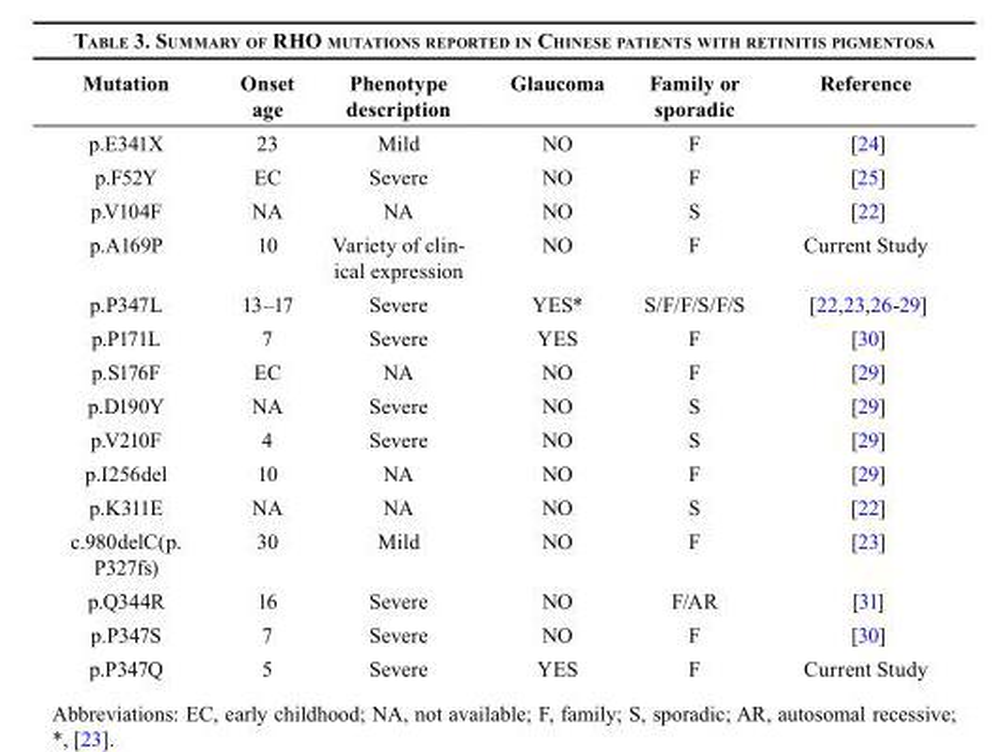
<table><thead><tr><td>Mutation</td><td>Onset age</td><td>Phenotype description</td><td>Glaucoma</td><td>Family or sporadic</td><td>Reference</td></tr></thead><tbody><tr><td>p.E341X</td><td>23</td><td>Mild</td><td>NO</td><td>F</td><td>[24]</td></tr><tr><td>p.F52Y</td><td>EC</td><td>Severe</td><td>NO</td><td>F</td><td>[25]</td></tr><tr><td>p.V104F</td><td>NA</td><td>NA</td><td>NO</td><td>S</td><td>[22]</td></tr><tr><td>p.A169P</td><td>10</td><td>Variety of clin- ical expression</td><td>NO</td><td>F</td><td>Current Study</td></tr><tr><td>p.P347L</td><td>13–17</td><td>Severe</td><td>YES*</td><td>S/F/F/S/F/S</td><td>[22,23,26-29]</td></tr><tr><td>p.P171L</td><td>7</td><td>Severe</td><td>YES</td><td>F</td><td>[30]</td></tr><tr><td>p.S176F</td><td>EC</td><td>NA</td><td>NO</td><td>F</td><td>[29]</td></tr><tr><td>p.D190Y</td><td>NA</td><td>Severe</td><td>NO</td><td>S</td><td>[29]</td></tr><tr><td>p.V210F</td><td>4</td><td>Severe</td><td>NO</td><td>S</td><td>[29]</td></tr><tr><td>p.I256del</td><td>10</td><td>NA</td><td>NO</td><td>F</td><td>[29]</td></tr><tr><td>p.K311E</td><td>NA</td><td>NA</td><td>NO</td><td>S</td><td>[22]</td></tr><tr><td>c.980delC(p. P327fs)</td><td>30</td><td>Mild</td><td>NO</td><td>F</td><td>[23]</td></tr><tr><td>p.Q344R</td><td>16</td><td>Severe</td><td>NO</td><td>F/AR</td><td>[31]</td></tr><tr><td>p.P347S</td><td>7</td><td>Severe</td><td>NO</td><td>F</td><td>[30]</td></tr><tr><td>p.P347Q</td><td>5</td><td>Severe</td><td>YES</td><td>F</td><td>Current Study</td></tr></tbody></table>